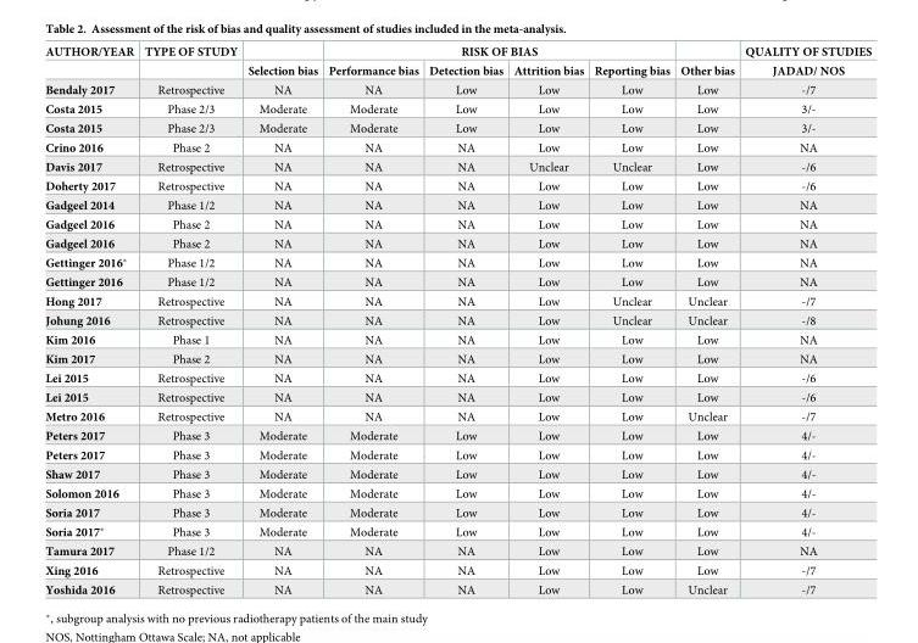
<table><thead><tr><td rowspan="2">AUTHOR/YEAR</td><td rowspan="2">TYPE OF STUDY</td><td rowspan="2">Selection bias</td><td colspan="4">RISK OF BIAS</td><td rowspan="2">Other bias</td><td rowspan="2">QUALITY OF STUDIES JADAD/ NOS</td></tr><tr><td>Performance bias</td><td>Detection bias</td><td>Attrition bias</td><td>Reporting bias</td></tr></thead><tbody><tr><td>Bendaly 2017</td><td>Retrospective</td><td>NA</td><td>NA</td><td>Low</td><td>Low</td><td>Low</td><td>Low</td><td>-/7</td></tr><tr><td>Costa 2015</td><td>Phase 2/3</td><td>Moderate</td><td>Moderate</td><td>Low</td><td>Low</td><td>Low</td><td>Low</td><td>3/-</td></tr><tr><td>Costa 2015</td><td>Phase 2/3</td><td>Moderate</td><td>Moderate</td><td>Low</td><td>Low</td><td>Low</td><td>Low</td><td>3/-</td></tr><tr><td>Crino 2016</td><td>Phase 2</td><td>NA</td><td>NA</td><td>NA</td><td>Low</td><td>Low</td><td>Low</td><td>NA</td></tr><tr><td>Davis 2017</td><td>Retrospective</td><td>NA</td><td>NA</td><td>NA</td><td>Unclear</td><td>Unclear</td><td>Low</td><td>-/6</td></tr><tr><td>Doherty 2017</td><td>Retrospective</td><td>NA</td><td>NA</td><td>NA</td><td>Low</td><td>Low</td><td>Low</td><td>-/6</td></tr><tr><td>Gadgeel 2014</td><td>Phase 1/2</td><td>NA</td><td>NA</td><td>NA</td><td>Low</td><td>Low</td><td>Low</td><td>NA</td></tr><tr><td>Gadgeel 2016</td><td>Phase 2</td><td>NA</td><td>NA</td><td>NA</td><td>Low</td><td>Low</td><td>Low</td><td>NA</td></tr><tr><td>Gadgeel 2016</td><td>Phase 2</td><td>NA</td><td>NA</td><td>NA</td><td>Low</td><td>Low</td><td>Low</td><td>NA</td></tr><tr><td>Gettinger 2016*</td><td>Phase 1/2</td><td>NA</td><td>NA</td><td>NA</td><td>Low</td><td>Low</td><td>Low</td><td>NA</td></tr><tr><td>Gettinger 2016</td><td>Phase 1/2</td><td>NA</td><td>NA</td><td>NA</td><td>Low</td><td>Low</td><td>Low</td><td>NA</td></tr><tr><td>Hong 2017</td><td>Retrospective</td><td>NA</td><td>NA</td><td>NA</td><td>Low</td><td>Unclear</td><td>Unclear</td><td>-/7</td></tr><tr><td>Johung 2016</td><td>Retrospective</td><td>NA</td><td>NA</td><td>NA</td><td>Low</td><td>Unclear</td><td>Unclear</td><td>-/8</td></tr><tr><td>Kim 2016</td><td>Phase 1</td><td>NA</td><td>NA</td><td>NA</td><td>Low</td><td>Low</td><td>Low</td><td>NA</td></tr><tr><td>Kim 2017</td><td>Phase 2</td><td>NA</td><td>NA</td><td>NA</td><td>Low</td><td>Low</td><td>Low</td><td>NA</td></tr><tr><td>Lei 2015</td><td>Retrospective</td><td>NA</td><td>NA</td><td>NA</td><td>Low</td><td>Low</td><td>Low</td><td>-/6</td></tr><tr><td>Lei 2015</td><td>Retrospective</td><td>NA</td><td>NA</td><td>NA</td><td>Low</td><td>Low</td><td>Low</td><td>-/6</td></tr><tr><td>Metro 2016</td><td>Retrospective</td><td>NA</td><td>NA</td><td>NA</td><td>Low</td><td>Low</td><td>Unclear</td><td>-/7</td></tr><tr><td>Peters 2017</td><td>Phase 3</td><td>Moderate</td><td>Moderate</td><td>Low</td><td>Low</td><td>Low</td><td>Low</td><td>4/-</td></tr><tr><td>Peters 2017</td><td>Phase 3</td><td>Moderate</td><td>Moderate</td><td>Low</td><td>Low</td><td>Low</td><td>Low</td><td>4/-</td></tr><tr><td>Shaw 2017</td><td>Phase 3</td><td>Moderate</td><td>Moderate</td><td>Low</td><td>Low</td><td>Low</td><td>Low</td><td>4/-</td></tr><tr><td>Solomon 2016</td><td>Phase 3</td><td>Moderate</td><td>Moderate</td><td>Low</td><td>Low</td><td>Low</td><td>Low</td><td>4/-</td></tr><tr><td>Soria 2017</td><td>Phase 3</td><td>Moderate</td><td>Moderate</td><td>Low</td><td>Low</td><td>Low</td><td>Low</td><td>4/-</td></tr><tr><td>Soria 2017*</td><td>Phase 3</td><td>Moderate</td><td>Moderate</td><td>Low</td><td>Low</td><td>Low</td><td>Low</td><td>4/-</td></tr><tr><td>Tamura 2017</td><td>Phase 1/2</td><td>NA</td><td>NA</td><td>NA</td><td>Low</td><td>Low</td><td>Low</td><td>NA</td></tr><tr><td>Xing 2016</td><td>Retrospective</td><td>NA</td><td>NA</td><td>NA</td><td>Low</td><td>Low</td><td>Low</td><td>-/7</td></tr><tr><td>Yoshida 2016</td><td>Retrospective</td><td>NA</td><td>NA</td><td>NA</td><td>Low</td><td>Low</td><td>Unclear</td><td>-/7</td></tr></tbody></table>